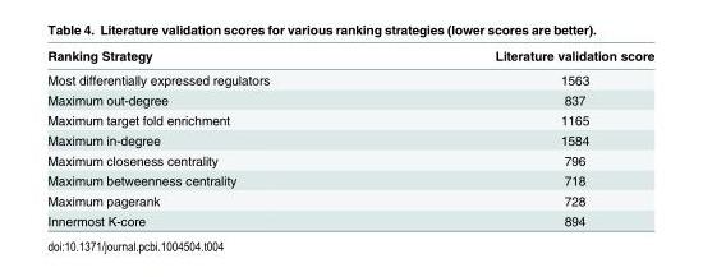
<table><thead><tr><td>Ranking Strategy</td><td>Literature validation score</td></tr></thead><tbody><tr><td>Most differentially expressed regulators</td><td>1563</td></tr><tr><td>Maximum out-degree</td><td>837</td></tr><tr><td>Maximum target fold enrichment</td><td>1165</td></tr><tr><td>Maximum in-degree</td><td>1584</td></tr><tr><td>Maximum closeness centrality</td><td>796</td></tr><tr><td>Maximum betweenness centrality</td><td>718</td></tr><tr><td>Maximum pagerank</td><td>728</td></tr><tr><td>Innermost K-core</td><td>894</td></tr></tbody></table>